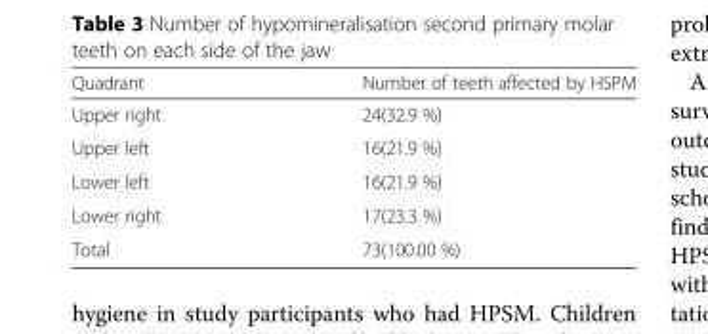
<table><thead><tr><td>Quadrant</td><td>Number of teeth affected by HSPM</td></tr></thead><tbody><tr><td>Upper right</td><td>24(32.9 %)</td></tr><tr><td>Upper left</td><td>16(21.9 %)</td></tr><tr><td>Lower left</td><td>16(21.9 %)</td></tr><tr><td>Lower right</td><td>17(23.3 %)</td></tr><tr><td>Total</td><td>73(100.00 %)</td></tr></tbody></table>